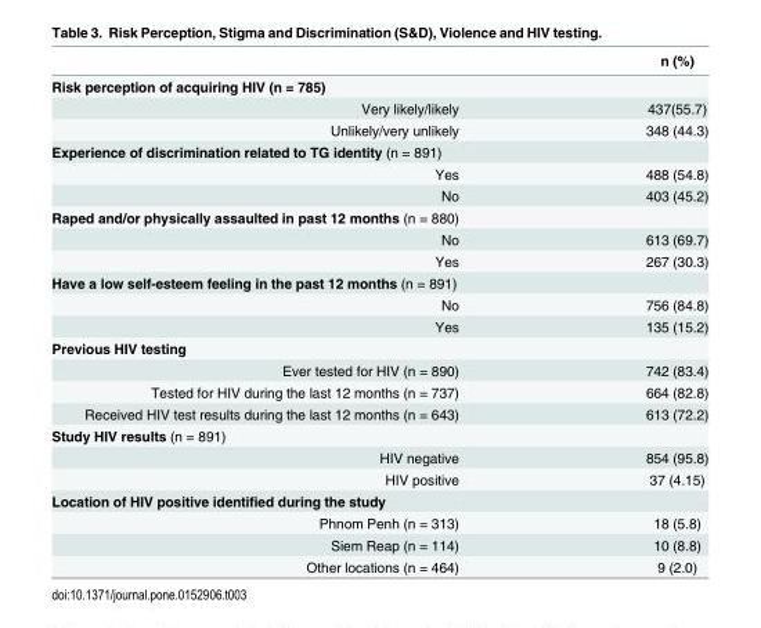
<table><thead><tr><td></td><td>n (%)</td></tr></thead><tbody><tr><td colspan="2">Risk perception of acquiring HIV (n = 785)</td></tr><tr><td>Very likely/likely</td><td>437(55.7)</td></tr><tr><td>Unlikely/very unlikely</td><td>348 (44.3)</td></tr><tr><td colspan="2">Experience of discrimination related to TG identity (n = 891)</td></tr><tr><td>Yes</td><td>488 (54.8)</td></tr><tr><td>No</td><td>403 (45.2)</td></tr><tr><td colspan="2">Raped and/or physically assaulted in past 12 months (n = 880)</td></tr><tr><td>No</td><td>613 (69.7)</td></tr><tr><td>Yes</td><td>267 (30.3)</td></tr><tr><td colspan="2">Have a low self-esteem feeling in the past 12 months (n = 891)</td></tr><tr><td>No</td><td>756 (84.8)</td></tr><tr><td>Yes</td><td>135 (15.2)</td></tr><tr><td colspan="2">Previous HIV testing</td></tr><tr><td>Ever tested for HIV (n = 890)</td><td>742 (83.4)</td></tr><tr><td>Tested for HIV during the last 12 months (n = 737)</td><td>664 (82.8)</td></tr><tr><td>Received HIV test results during the last 12 months (n = 643)</td><td>613 (72.2)</td></tr><tr><td colspan="2">Study HIV results (n = 891)</td></tr><tr><td>HIV negative</td><td>854 (95.8)</td></tr><tr><td>HIV positive</td><td>37 (4.15)</td></tr><tr><td colspan="2">Location of HIV positive identified during the study</td></tr><tr><td>Phnom Penh (n = 313)</td><td>18 (5.8)</td></tr><tr><td>Siem Reap (n = 114)</td><td>10 (8.8)</td></tr><tr><td>Other locations (n = 464)</td><td>9 (2.0)</td></tr></tbody></table>